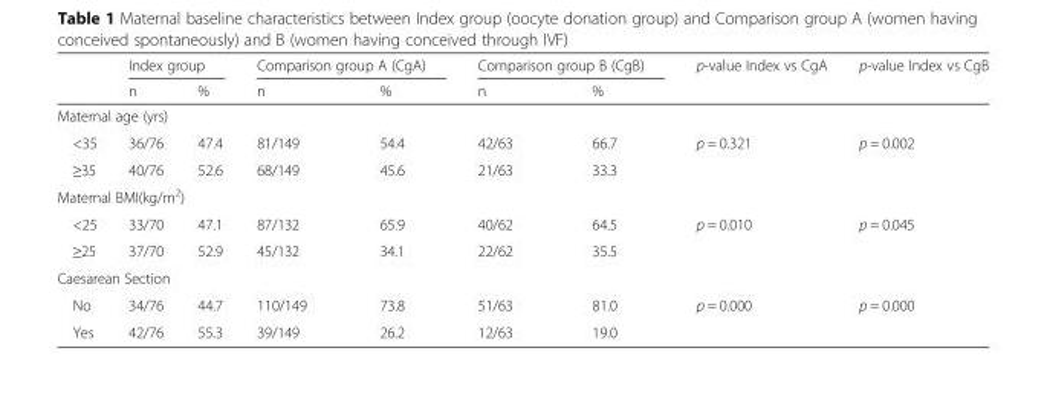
<table><thead><tr><td rowspan="2"></td><td colspan="2">Index group</td><td colspan="2">Comparison group A (CgA)</td><td colspan="2">Comparison group B (CgB)</td><td rowspan="2">p-value Index vs CgA</td><td rowspan="2">p-value Index vs CgB</td></tr><tr><td>n</td><td>%</td><td>n</td><td>%</td><td>n</td><td>%</td></tr></thead><tbody><tr><td colspan="9">Maternal age (yrs)</td></tr><tr><td>&lt;35</td><td>36/76</td><td>47.4</td><td>81/149</td><td>54.4</td><td>42/63</td><td>66.7</td><td rowspan="2">p = 0.321</td><td rowspan="2">p = 0.002</td></tr><tr><td>≥35</td><td>40/76</td><td>52.6</td><td>68/149</td><td>45.6</td><td>21/63</td><td>33.3</td></tr><tr><td colspan="9">Maternal BMI(kg/m<sup>2</sup>)</td></tr><tr><td>&lt;25</td><td>33/70</td><td>47.1</td><td>87/132</td><td>65.9</td><td>40/62</td><td>64.5</td><td rowspan="2">p = 0.010</td><td rowspan="2">p = 0.045</td></tr><tr><td>≥25</td><td>37/70</td><td>52.9</td><td>45/132</td><td>34.1</td><td>22/62</td><td>35.5</td></tr><tr><td colspan="9">Caesarean Section</td></tr><tr><td>No</td><td>34/76</td><td>44.7</td><td>110/149</td><td>73.8</td><td>51/63</td><td>81.0</td><td rowspan="2">p = 0.000</td><td rowspan="2">p = 0.000</td></tr><tr><td>Yes</td><td>42/76</td><td>55.3</td><td>39/149</td><td>26.2</td><td>12/63</td><td>19.0</td></tr></tbody></table>